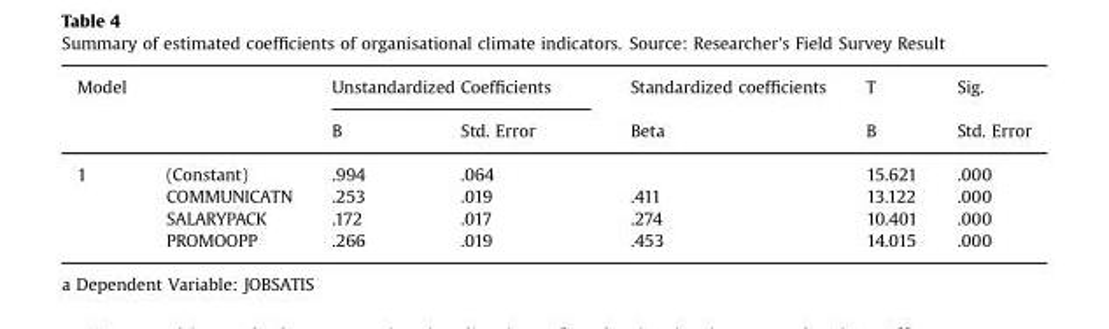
<table><thead><tr><td rowspan="2">Model</td><td rowspan="2"></td><td colspan="2">Unstandardized Coefficients</td><td rowspan="2">Standardized coefficients Beta</td><td rowspan="2">T B</td><td rowspan="2">Sig. Std. Error</td></tr><tr><td>B</td><td>Std. Error</td></tr></thead><tbody><tr><td rowspan="4">1</td><td>(Constant)</td><td>.994</td><td>.064</td><td></td><td>15.621</td><td>.000</td></tr><tr><td>COMMUNICATN</td><td>.253</td><td>.019</td><td>.411</td><td>13.122</td><td>.000</td></tr><tr><td>SALARYPACK</td><td>.172</td><td>.017</td><td>.274</td><td>10.401</td><td>.000</td></tr><tr><td>PROMOOPP</td><td>.266</td><td>.019</td><td>.453</td><td>14.015</td><td>.000</td></tr></tbody></table>